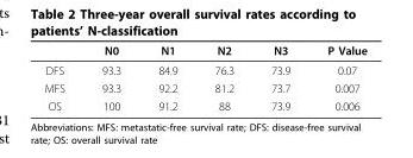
<table><thead><tr><td></td><td>N0</td><td>N1</td><td>N2</td><td>N3</td><td>P Value</td></tr></thead><tbody><tr><td>DFS</td><td>93.3</td><td>84.9</td><td>76.3</td><td>73.9</td><td>0.07</td></tr><tr><td>MFS</td><td>93.3</td><td>92.2</td><td>81.2</td><td>73.7</td><td>0.007</td></tr><tr><td>OS</td><td>100</td><td>91.2</td><td>88</td><td>73.9</td><td>0.006</td></tr></tbody></table>